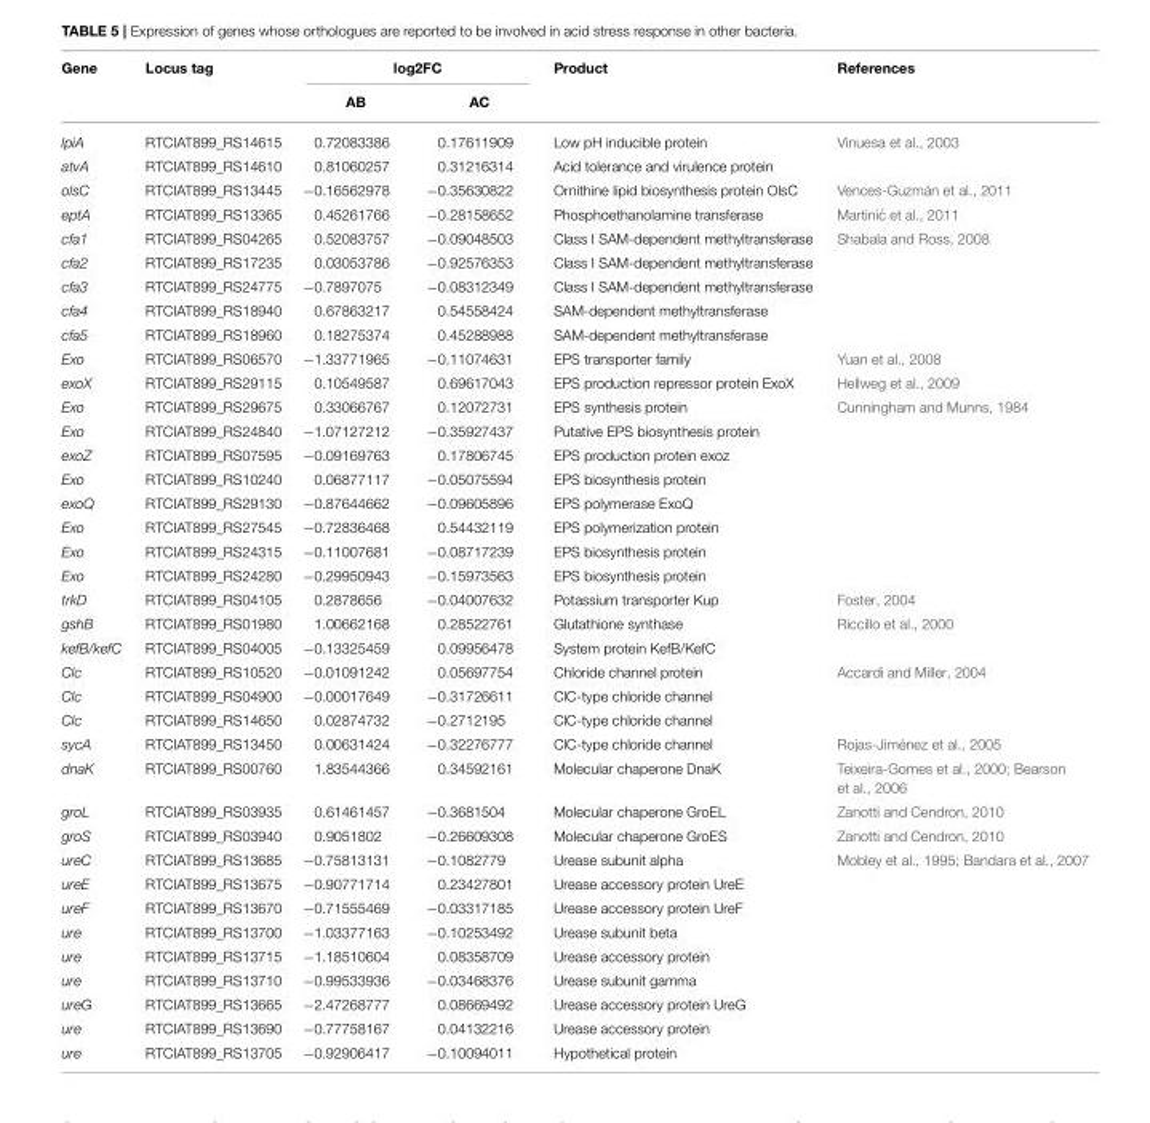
<table><thead><tr><td rowspan="2">Gene</td><td rowspan="2">Locus tag</td><td colspan="2">log2FC</td><td rowspan="2">Product</td><td rowspan="2">References</td></tr><tr><td>AB</td><td>AC</td></tr></thead><tbody><tr><td>lpiA</td><td>RTCIAT899_RS14615</td><td>0.72083386</td><td>0.17611909</td><td>Low pH inducible protein</td><td>Vinuesa et al., 2003</td></tr><tr><td>atvA</td><td>RTCIAT899_RS14610</td><td>0.81060257</td><td>0.31216314</td><td>Acid tolerance and virulence protein</td><td></td></tr><tr><td>olsC</td><td>RTCIAT899_RS13445</td><td>−0.16562978</td><td>−0.35630822</td><td>Ornithine lipid biosynthesis protein OlsC</td><td>Vences-Guzmán et al., 2011</td></tr><tr><td>eptA</td><td>RTCIAT899_RS13365</td><td>0.45261766</td><td>−0.28158652</td><td>Phosphoethanolamine transferase</td><td>Martini ´c et al., 2011</td></tr><tr><td>cfa1</td><td>RTCIAT899_RS04265</td><td>0.52083757</td><td>−0.09048503</td><td>Class I SAM-dependent methyltransferase</td><td>Shabala and Ross, 2008</td></tr><tr><td>cfa2</td><td>RTCIAT899_RS17235</td><td>0.03053786</td><td>−0.92576353</td><td>Class I SAM-dependent methyltransferase</td><td></td></tr><tr><td>cfa3</td><td>RTCIAT899_RS24775</td><td>−0.7897075</td><td>−0.08312349</td><td>Class I SAM-dependent methyltransferase</td><td></td></tr><tr><td>cfa4</td><td>RTCIAT899_RS18940</td><td>0.67863217</td><td>0.54558424</td><td>SAM-dependent methyltransferase</td><td></td></tr><tr><td>cfa5</td><td>RTCIAT899_RS18960</td><td>0.18275374</td><td>0.45288988</td><td>SAM-dependent methyltransferase</td><td></td></tr><tr><td>Exo</td><td>RTCIAT899_RS06570</td><td>−1.33771965</td><td>−0.11074631</td><td>EPS transporter family</td><td>Yuan et al., 2008</td></tr><tr><td>exoX</td><td>RTCIAT899_RS29115</td><td>0.10549587</td><td>0.69617043</td><td>EPS production repressor protein ExoX</td><td>Hellweg et al., 2009</td></tr><tr><td>Exo</td><td>RTCIAT899_RS29675</td><td>0.33066767</td><td>0.12072731</td><td>EPS synthesis protein</td><td>Cunningham and Munns, 1984</td></tr><tr><td>Exo</td><td>RTCIAT899_RS24840</td><td>−1.07127212</td><td>−0.35927437</td><td>Putative EPS biosynthesis protein</td><td></td></tr><tr><td>exoZ</td><td>RTCIAT899_RS07595</td><td>−0.09169763</td><td>0.17806745</td><td>EPS production protein exoz</td><td></td></tr><tr><td>Exo</td><td>RTCIAT899_RS10240</td><td>0.06877117</td><td>−0.05075594</td><td>EPS biosynthesis protein</td><td></td></tr><tr><td>exoQ</td><td>RTCIAT899_RS29130</td><td>−0.87644662</td><td>−0.09605896</td><td>EPS polymerase ExoQ</td><td></td></tr><tr><td>Exo</td><td>RTCIAT899_RS27545</td><td>−0.72836468</td><td>0.54432119</td><td>EPS polymerization protein</td><td></td></tr><tr><td>Exo</td><td>RTCIAT899_RS24315</td><td>−0.11007681</td><td>−0.08717239</td><td>EPS biosynthesis protein</td><td></td></tr><tr><td>Exo</td><td>RTCIAT899_RS24280</td><td>−0.29950943</td><td>−0.15973563</td><td>EPS biosynthesis protein</td><td></td></tr><tr><td>trkD</td><td>RTCIAT899_RS04105</td><td>0.2878656</td><td>−0.04007632</td><td>Potassium transporter Kup</td><td>Foster, 2004</td></tr><tr><td>gshB</td><td>RTCIAT899_RS01980</td><td>1.00662168</td><td>0.28522761</td><td>Glutathione synthase</td><td>Riccillo et al., 2000</td></tr><tr><td>kefB/kefC</td><td>RTCIAT899_RS04005</td><td>−0.13325459</td><td>0.09956478</td><td>System protein KefB/KefC</td><td></td></tr><tr><td>Clc</td><td>RTCIAT899_RS10520</td><td>−0.01091242</td><td>0.05697754</td><td>Chloride channel protein</td><td>Accardi and Miller, 2004</td></tr><tr><td>Clc</td><td>RTCIAT899_RS04900</td><td>−0.00017649</td><td>−0.31726611</td><td>ClC-type chloride channel</td><td></td></tr><tr><td>Clc</td><td>RTCIAT899_RS14650</td><td>0.02874732</td><td>−0.2712195</td><td>ClC-type chloride channel</td><td></td></tr><tr><td>sycA</td><td>RTCIAT899_RS13450</td><td>0.00631424</td><td>−0.32276777</td><td>ClC-type chloride channel</td><td>Rojas-Jiménez et al., 2005</td></tr><tr><td>dnaK</td><td>RTCIAT899_RS00760</td><td>1.83544366</td><td>0.34592161</td><td>Molecular chaperone DnaK</td><td>Teixeira-Gomes et al., 2000; Bearson et al., 2006</td></tr><tr><td>groL</td><td>RTCIAT899_RS03935</td><td>0.61461457</td><td>−0.3681504</td><td>Molecular chaperone GroEL</td><td>Zanotti and Cendron, 2010</td></tr><tr><td>groS</td><td>RTCIAT899_RS03940</td><td>0.9051802</td><td>−0.26609308</td><td>Molecular chaperone GroES</td><td>Zanotti and Cendron, 2010</td></tr><tr><td>ureC</td><td>RTCIAT899_RS13685</td><td>−0.75813131</td><td>−0.1082779</td><td>Urease subunit alpha</td><td>Mobley et al., 1995; Bandara et al., 2007</td></tr><tr><td>ureE</td><td>RTCIAT899_RS13675</td><td>−0.90771714</td><td>0.23427801</td><td>Urease accessory protein UreE</td><td></td></tr><tr><td>ureF</td><td>RTCIAT899_RS13670</td><td>−0.71555469</td><td>−0.03317185</td><td>Urease accessory protein UreF</td><td></td></tr><tr><td>ure</td><td>RTCIAT899_RS13700</td><td>−1.03377163</td><td>−0.10253492</td><td>Urease subunit beta</td><td></td></tr><tr><td>ure</td><td>RTCIAT899_RS13715</td><td>−1.18510604</td><td>0.08358709</td><td>Urease accessory protein</td><td></td></tr><tr><td>ure</td><td>RTCIAT899_RS13710</td><td>−0.99533936</td><td>−0.03468376</td><td>Urease subunit gamma</td><td></td></tr><tr><td>ureG</td><td>RTCIAT899_RS13665</td><td>−2.47268777</td><td>0.08669492</td><td>Urease accessory protein UreG</td><td></td></tr><tr><td>ure</td><td>RTCIAT899_RS13690</td><td>−0.77758167</td><td>0.04132216</td><td>Urease accessory protein</td><td></td></tr><tr><td>ure</td><td>RTCIAT899_RS13705</td><td>−0.92906417</td><td>−0.10094011</td><td>Hypothetical protein</td><td></td></tr></tbody></table>